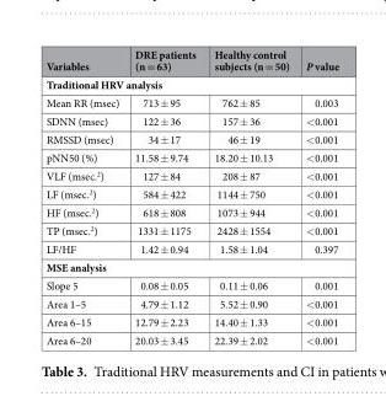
<table><thead><tr><td>Variables</td><td>DRE patients (n = 63)</td><td>Healthy control subjects (n = 50)</td><td>P value</td></tr></thead><tbody><tr><td colspan="4">Traditional HRV analysis</td></tr><tr><td>Mean RR (msec)</td><td>713 ± 95</td><td>762 ± 85</td><td>0.003</td></tr><tr><td>SDNN (msec)</td><td>122 ± 36</td><td>157 ± 36</td><td>&lt;0.001</td></tr><tr><td>RMSSD (msec)</td><td>34 ± 17</td><td>46 ± 19</td><td>&lt;0.001</td></tr><tr><td>pNN50 (%)</td><td>11.58 ± 9.74</td><td>18.20 ± 10.13</td><td>&lt;0.001</td></tr><tr><td>VLF (msec.<sup>2</sup>)</td><td>127 ± 84</td><td>208 ± 87</td><td>&lt;0.001</td></tr><tr><td>LF (msec.<sup>2</sup>)</td><td>584 ± 422</td><td>1144 ± 750</td><td>&lt;0.001</td></tr><tr><td>HF (msec.<sup>2</sup>)</td><td>618 ± 808</td><td>1073 ± 944</td><td>&lt;0.001</td></tr><tr><td>TP (msec.<sup>2</sup>)</td><td>1331 ± 1175</td><td>2428 ± 1554</td><td>&lt;0.001</td></tr><tr><td>LF/HF</td><td>1.42 ± 0.94</td><td>1.58 ± 1.04</td><td>0.397</td></tr><tr><td colspan="4">MSE analysis</td></tr><tr><td>Slope 5</td><td>0.08 ± 0.05</td><td>0.11 ± 0.06</td><td>0.001</td></tr><tr><td>Area 1–5</td><td>4.79 ± 1.12</td><td>5.52 ± 0.90</td><td>&lt;0.001</td></tr><tr><td>Area 6–15</td><td>12.79 ± 2.23</td><td>14.40 ± 1.33</td><td>&lt;0.001</td></tr><tr><td>Area 6–20</td><td>20.03 ± 3.45</td><td>22.39 ± 2.02</td><td>&lt;0.001</td></tr></tbody></table>